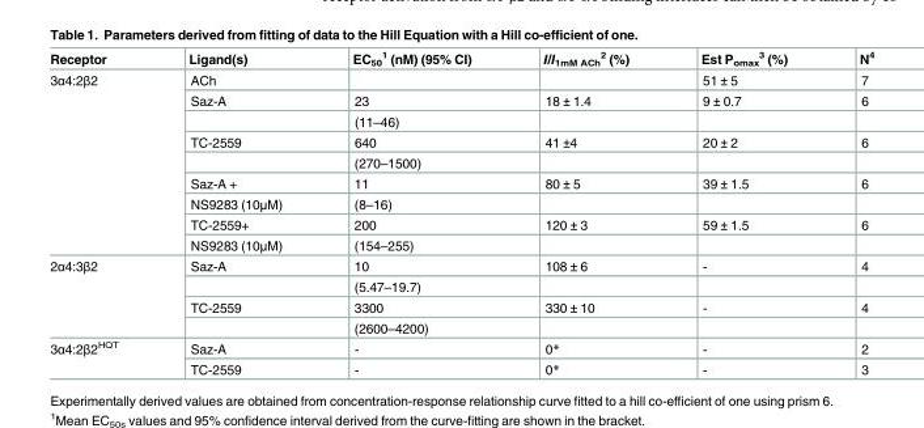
<table><thead><tr><td>Receptor</td><td>Ligand(s)</td><td>EC<sub>50</sub> <sup>1</sup> (nM) (95% CI)</td><td>I/I<sub>1mM ACh</sub> <sup>2</sup> (%)</td><td>Est P<sub>omax</sub> <sup>3</sup> (%)</td><td>N<sup>4</sup></td></tr></thead><tbody><tr><td rowspan="9">3α4:2β2</td><td>ACh</td><td></td><td></td><td>51 ± 5</td><td>7</td></tr><tr><td>Saz-A</td><td>23</td><td>18 ± 1.4</td><td>9 ± 0.7</td><td>6</td></tr><tr><td></td><td>(11–46)</td><td></td><td></td><td></td></tr><tr><td>TC-2559</td><td>640</td><td>41 ±4</td><td>20 ± 2</td><td>6</td></tr><tr><td></td><td>(270–1500)</td><td></td><td></td><td></td></tr><tr><td>Saz-A +</td><td>11</td><td>80 ± 5</td><td>39 ± 1.5</td><td>6</td></tr><tr><td>NS9283 (10μM)</td><td>(8–16)</td><td></td><td></td><td></td></tr><tr><td>TC-2559+</td><td>200</td><td>120 ± 3</td><td>59 ± 1.5</td><td>6</td></tr><tr><td>NS9283 (10μM)</td><td>(154–255)</td><td></td><td></td><td></td></tr><tr><td rowspan="4">2α4:3β2</td><td>Saz-A</td><td>10</td><td>108 ± 6</td><td>-</td><td>4</td></tr><tr><td></td><td>(5.47–19.7)</td><td></td><td></td><td></td></tr><tr><td>TC-2559</td><td>3300</td><td>330 ± 10</td><td>-</td><td>4</td></tr><tr><td></td><td>(2600–4200)</td><td></td><td></td><td></td></tr><tr><td rowspan="2">3α4:2β2<sup>HQT</sup></td><td>Saz-A</td><td>-</td><td>0*</td><td>-</td><td>2</td></tr><tr><td>TC-2559</td><td>-</td><td>0*</td><td>-</td><td>3</td></tr></tbody></table>